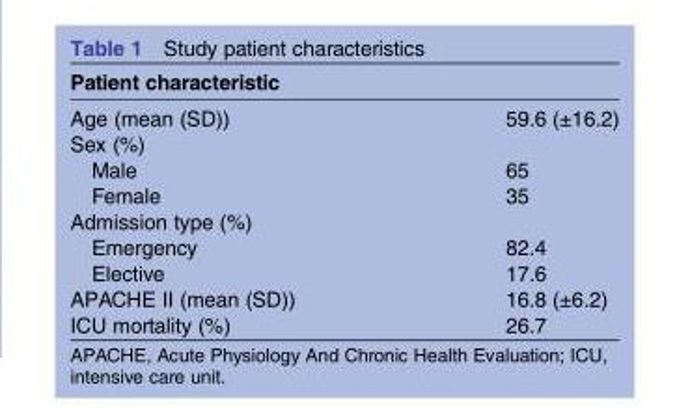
<table><thead><tr><td colspan="2">Patient characteristic</td></tr><tr><td>Age (mean (SD))</td><td>59.6 (±16.2)</td></tr></thead><tbody><tr><td colspan="2">Sex (%)</td></tr><tr><td>Male</td><td>65</td></tr><tr><td>Female</td><td>35</td></tr><tr><td colspan="2">Admission type (%)</td></tr><tr><td>Emergency</td><td>82.4</td></tr><tr><td>Elective</td><td>17.6</td></tr><tr><td>APACHE II (mean (SD))</td><td>16.8 (±6.2)</td></tr><tr><td>ICU mortality (%)</td><td>26.7</td></tr></tbody></table>